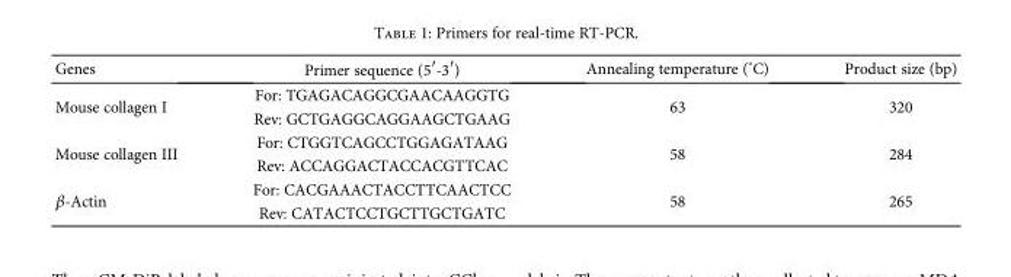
<table><thead><tr><td>Genes</td><td>Primer sequence (5′-3′)</td><td>Annealing temperature (°C)</td><td>Product size (bp)</td></tr></thead><tbody><tr><td rowspan="2">Mouse collagen I</td><td>For: TGAGACAGGCGAACAAGGTG</td><td rowspan="2">63</td><td rowspan="2">320</td></tr><tr><td>Rev: GCTGAGGCAGGAAGCTGAAG</td></tr><tr><td rowspan="2">Mouse collagen III</td><td>For: CTGGTCAGCCTGGAGATAAG</td><td rowspan="2">58</td><td rowspan="2">284</td></tr><tr><td>Rev: ACCAGGACTACCACGTTCAC</td></tr><tr><td rowspan="2">β-Actin</td><td>For: CACGAAACTACCTTCAACTCC</td><td rowspan="2">58</td><td rowspan="2">265</td></tr><tr><td>Rev: CATACTCCTGCTTGCTGATC</td></tr></tbody></table>